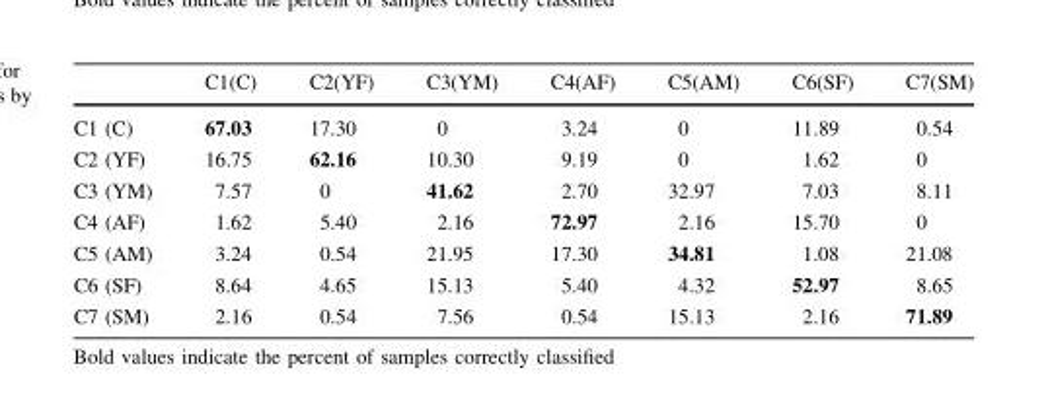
<table><thead><tr><td></td><td>C1(C)</td><td>C2(YF)</td><td>C3(YM)</td><td>C4(AF)</td><td>C5(AM)</td><td>C6(SF)</td><td>C7(SM)</td></tr></thead><tbody><tr><td>C1 (C)</td><td>67.03</td><td>17.30</td><td>0</td><td>3.24</td><td>0</td><td>11.89</td><td>0.54</td></tr><tr><td>C2 (YF)</td><td>16.75</td><td>62.16</td><td>10.30</td><td>9.19</td><td>0</td><td>1.62</td><td>0</td></tr><tr><td>C3 (YM)</td><td>7.57</td><td>0</td><td>41.62</td><td>2.70</td><td>32.97</td><td>7.03</td><td>8.11</td></tr><tr><td>C4 (AF)</td><td>1.62</td><td>5.40</td><td>2.16</td><td>72.97</td><td>2.16</td><td>15.70</td><td>0</td></tr><tr><td>C5 (AM)</td><td>3.24</td><td>0.54</td><td>21.95</td><td>17.30</td><td>34.81</td><td>1.08</td><td>21.08</td></tr><tr><td>C6 (SF)</td><td>8.64</td><td>4.65</td><td>15.13</td><td>5.40</td><td>4.32</td><td>52.97</td><td>8.65</td></tr><tr><td>C7 (SM)</td><td>2.16</td><td>0.54</td><td>7.56</td><td>0.54</td><td>15.13</td><td>2.16</td><td>71.89</td></tr></tbody></table>